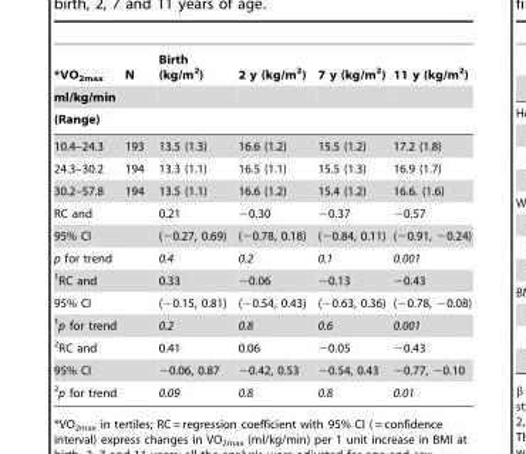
<table><thead><tr><td rowspan="3">*VO<sub>2max</sub> ml/kg/min (Range)</td><td rowspan="3">N</td><td rowspan="3">Birth (kg/m<sup>2</sup>)</td><td rowspan="3">2 y (kg/m<sup>2</sup>)</td><td rowspan="3">7 y (kg/m<sup>2</sup>)</td><td rowspan="3">11 y (kg/m<sup>2</sup>)</td></tr><tr></tr><tr></tr></thead><tbody><tr><td>10.4–24.3</td><td>193</td><td>13.5 (1.3)</td><td>16.6 (1.2)</td><td>15.5 (1.2)</td><td>17.2 (1.8)</td></tr><tr><td>24.3–30.2</td><td>194</td><td>13.3 (1.1)</td><td>16.5 (1.1)</td><td>15.5 (1.3)</td><td>16.9 (1.7)</td></tr><tr><td>30.2–57.8</td><td>194</td><td>13.5 (1.1)</td><td>16.6 (1.2)</td><td>15.4 (1.2)</td><td>16.6. (1.6)</td></tr><tr><td>RC and</td><td></td><td>0.21</td><td>−0.30</td><td>−0.37</td><td>−0.57</td></tr><tr><td>95% CI</td><td></td><td>(−0.27, 0.69)</td><td>(−0.78, 0.18)</td><td>(−0.84, 0.11)</td><td>(−0.91, −0.24)</td></tr><tr><td>p for trend</td><td></td><td>0.4</td><td>0.2</td><td>0.1</td><td>0.001</td></tr><tr><td>1RC and</td><td></td><td>0.33</td><td>−0.06</td><td>−0.13</td><td>−0.43</td></tr><tr><td>95% CI</td><td></td><td>(−0.15, 0.81)</td><td>(−0.54, 0.43)</td><td>(−0.63, 0.36)</td><td>(−0.78, −0.08)</td></tr><tr><td>1p for trend</td><td></td><td>0.2</td><td>0.8</td><td>0.6</td><td>0.001</td></tr><tr><td>2RC and</td><td></td><td>0.41</td><td>0.06</td><td>−0.05</td><td>−0.43</td></tr><tr><td>95% CI</td><td></td><td>−0.06, 0.87</td><td>−0.42, 0.53</td><td>−0.54, 0.43</td><td>−0.77, −0.10</td></tr><tr><td>2p for trend</td><td></td><td>0.09</td><td>0.8</td><td>0.8</td><td>0.01</td></tr></tbody></table>